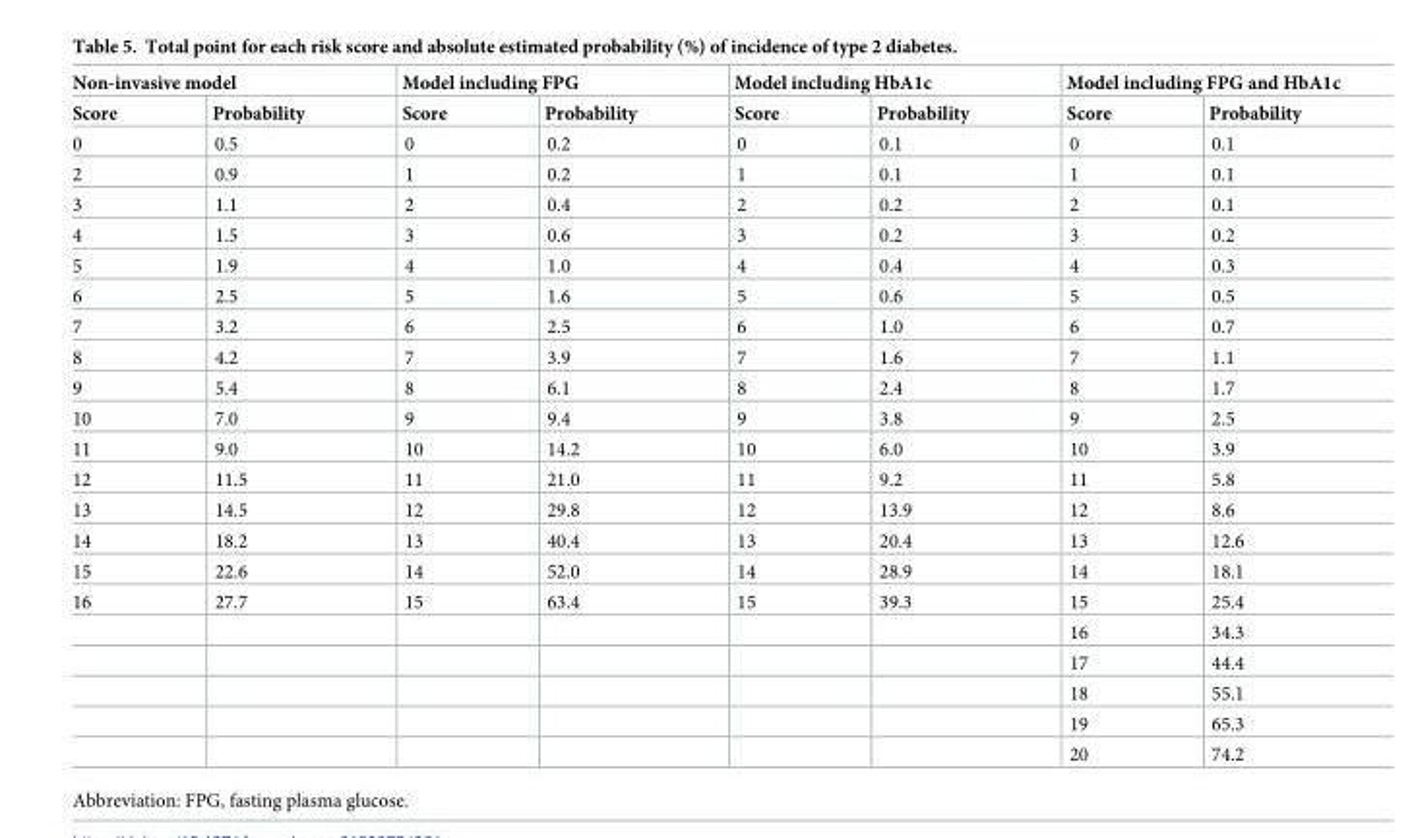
<table><thead><tr><td colspan="2">Non-invasive model</td><td colspan="2">Model including FPG</td><td colspan="2">Model including HbA1c</td><td colspan="2">Model including FPG and HbA1c</td></tr><tr><td>Score</td><td>Probability</td><td>Score</td><td>Probability</td><td>Score</td><td>Probability</td><td>Score</td><td>Probability</td></tr></thead><tbody><tr><td>0</td><td>0.5</td><td>0</td><td>0.2</td><td>0</td><td>0.1</td><td>0</td><td>0.1</td></tr><tr><td>2</td><td>0.9</td><td>1</td><td>0.2</td><td>1</td><td>0.1</td><td>1</td><td>0.1</td></tr><tr><td>3</td><td>1.1</td><td>2</td><td>0.4</td><td>2</td><td>0.2</td><td>2</td><td>0.1</td></tr><tr><td>4</td><td>1.5</td><td>3</td><td>0.6</td><td>3</td><td>0.2</td><td>3</td><td>0.2</td></tr><tr><td>5</td><td>1.9</td><td>4</td><td>1.0</td><td>4</td><td>0.4</td><td>4</td><td>0.3</td></tr><tr><td>6</td><td>2.5</td><td>5</td><td>1.6</td><td>5</td><td>0.6</td><td>5</td><td>0.5</td></tr><tr><td>7</td><td>3.2</td><td>6</td><td>2.5</td><td>6</td><td>1.0</td><td>6</td><td>0.7</td></tr><tr><td>8</td><td>4.2</td><td>7</td><td>3.9</td><td>7</td><td>1.6</td><td>7</td><td>1.1</td></tr><tr><td>9</td><td>5.4</td><td>8</td><td>6.1</td><td>8</td><td>2.4</td><td>8</td><td>1.7</td></tr><tr><td>10</td><td>7.0</td><td>9</td><td>9.4</td><td>9</td><td>3.8</td><td>9</td><td>2.5</td></tr><tr><td>11</td><td>9.0</td><td>10</td><td>14.2</td><td>10</td><td>6.0</td><td>10</td><td>3.9</td></tr><tr><td>12</td><td>11.5</td><td>11</td><td>21.0</td><td>11</td><td>9.2</td><td>11</td><td>5.8</td></tr><tr><td>13</td><td>14.5</td><td>12</td><td>29.8</td><td>12</td><td>13.9</td><td>12</td><td>8.6</td></tr><tr><td>14</td><td>18.2</td><td>13</td><td>40.4</td><td>13</td><td>20.4</td><td>13</td><td>12.6</td></tr><tr><td>15</td><td>22.6</td><td>14</td><td>52.0</td><td>14</td><td>28.9</td><td>14</td><td>18.1</td></tr><tr><td rowspan="6">16</td><td>27.7</td><td>15</td><td>63.4</td><td>15</td><td>39.3</td><td>15</td><td>25.4</td></tr><tr><td></td><td></td><td></td><td></td><td></td><td>16</td><td>34.3</td></tr><tr><td></td><td></td><td></td><td></td><td></td><td>17</td><td>44.4</td></tr><tr><td></td><td></td><td></td><td></td><td></td><td>18</td><td>55.1</td></tr><tr><td></td><td></td><td></td><td></td><td></td><td>19</td><td>65.3</td></tr><tr><td></td><td></td><td></td><td></td><td></td><td>20</td><td>74.2</td></tr></tbody></table>